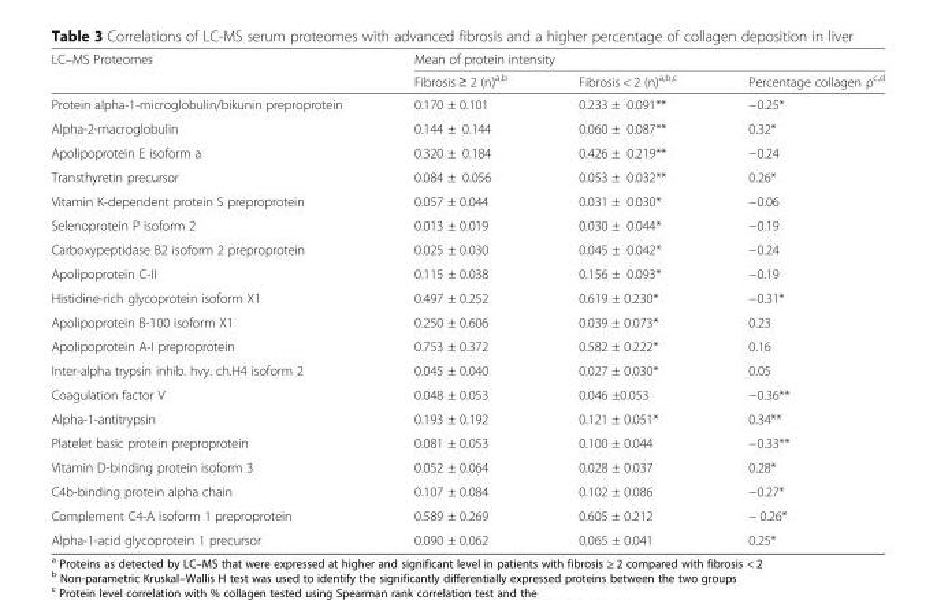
<table><thead><tr><td rowspan="2">LC–MS Proteomes</td><td colspan="3">Mean of protein intensity</td></tr><tr><td>Fibrosis ≥ 2 (n)<sup>a,b</sup></td><td>Fibrosis &lt; 2 (n)<sup>a,b,c</sup></td><td>Percentage collagen ρ<sup>c,d</sup></td></tr></thead><tbody><tr><td>Protein alpha-1-microglobulin/bikunin preproprotein</td><td>0.170 ± 0.101</td><td>0.233 ± 0.091**</td><td>−0.25*</td></tr><tr><td>Alpha-2-macroglobulin</td><td>0.144 ± 0.144</td><td>0.060 ± 0.087**</td><td>0.32*</td></tr><tr><td>Apolipoprotein E isoform a</td><td>0.320 ± 0.184</td><td>0.426 ± 0.219**</td><td>−0.24</td></tr><tr><td>Transthyretin precursor</td><td>0.084 ± 0.056</td><td>0.053 ± 0.032**</td><td>0.26*</td></tr><tr><td>Vitamin K-dependent protein S preproprotein</td><td>0.057 ± 0.044</td><td>0.031 ± 0.030*</td><td>−0.06</td></tr><tr><td>Selenoprotein P isoform 2</td><td>0.013 ± 0.019</td><td>0.030 ± 0.044*</td><td>−0.19</td></tr><tr><td>Carboxypeptidase B2 isoform 2 preproprotein</td><td>0.025 ± 0.030</td><td>0.045 ± 0.042*</td><td>−0.24</td></tr><tr><td>Apolipoprotein C-II</td><td>0.115 ± 0.038</td><td>0.156 ± 0.093*</td><td>−0.19</td></tr><tr><td>Histidine-rich glycoprotein isoform X1</td><td>0.497 ± 0.252</td><td>0.619 ± 0.230*</td><td>−0.31*</td></tr><tr><td>Apolipoprotein B-100 isoform X1</td><td>0.250 ± 0.606</td><td>0.039 ± 0.073*</td><td>0.23</td></tr><tr><td>Apolipoprotein A-I preproprotein</td><td>0.753 ± 0.372</td><td>0.582 ± 0.222*</td><td>0.16</td></tr><tr><td>Inter-alpha trypsin inhib. hvy. ch.H4 isoform 2</td><td>0.045 ± 0.040</td><td>0.027 ± 0.030*</td><td>0.05</td></tr><tr><td>Coagulation factor V</td><td>0.048 ± 0.053</td><td>0.046 ±0.053</td><td>−0.36**</td></tr><tr><td>Alpha-1-antitrypsin</td><td>0.193 ± 0.192</td><td>0.121 ± 0.051*</td><td>0.34**</td></tr><tr><td>Platelet basic protein preproprotein</td><td>0.081 ± 0.053</td><td>0.100 ± 0.044</td><td>−0.33**</td></tr><tr><td>Vitamin D-binding protein isoform 3</td><td>0.052 ± 0.064</td><td>0.028 ± 0.037</td><td>0.28*</td></tr><tr><td>C4b-binding protein alpha chain</td><td>0.107 ± 0.084</td><td>0.102 ± 0.086</td><td>−0.27*</td></tr><tr><td>Complement C4-A isoform 1 preproprotein</td><td>0.589 ± 0.269</td><td>0.605 ± 0.212</td><td>− 0.26*</td></tr><tr><td>Alpha-1-acid glycoprotein 1 precursor</td><td>0.090 ± 0.062</td><td>0.065 ± 0.041</td><td>0.25*</td></tr></tbody></table>